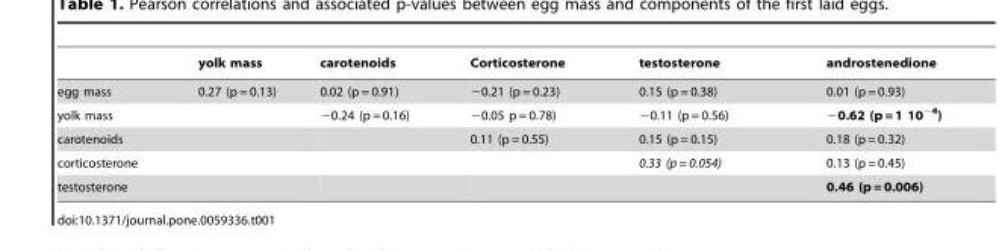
<table><thead><tr><td></td><td>yolk mass</td><td>carotenoids</td><td>Corticosterone</td><td>testosterone</td><td>androstenedione</td></tr></thead><tbody><tr><td>egg mass</td><td>0.27 (p = 0.13)</td><td>0.02 (p = 0.91)</td><td>−0.21 (p = 0.23)</td><td>0.15 (p = 0.38)</td><td>0.01 (p = 0.93)</td></tr><tr><td>yolk mass</td><td></td><td>−0.24 (p = 0.16)</td><td>−0.05 p = 0.78)</td><td>−0.11 (p = 0.56)</td><td>−0.62 (p = 1 10<sup>−4</sup>)</td></tr><tr><td>carotenoids</td><td></td><td></td><td>0.11 (p = 0.55)</td><td>0.15 (p = 0.15)</td><td>0.18 (p = 0.32)</td></tr><tr><td>corticosterone</td><td></td><td></td><td></td><td>0.33 (p = 0.054)</td><td>0.13 (p = 0.45)</td></tr><tr><td>testosterone</td><td></td><td></td><td></td><td></td><td>0.46 (p = 0.006)</td></tr></tbody></table>